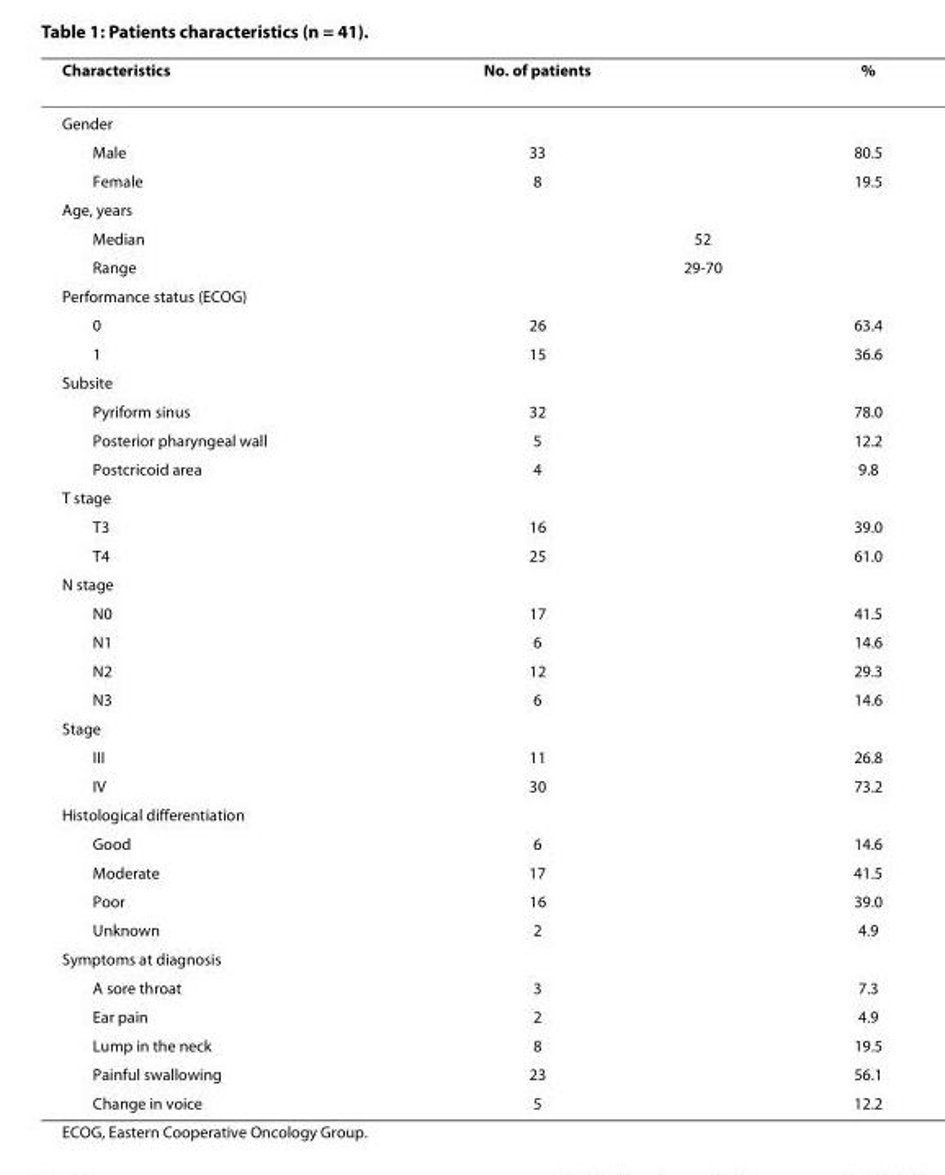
<table><thead><tr><td>Characteristics</td><td>No. of patients</td><td>%</td></tr></thead><tbody><tr><td colspan="3">Gender</td></tr><tr><td>Male</td><td>33</td><td>80.5</td></tr><tr><td>Female</td><td>8</td><td>19.5</td></tr><tr><td colspan="3">Age, years</td></tr><tr><td>Median</td><td colspan="2">52</td></tr><tr><td>Range</td><td colspan="2">29-70</td></tr><tr><td colspan="3">Performance status (ECOG)</td></tr><tr><td>0</td><td>26</td><td>63.4</td></tr><tr><td>1</td><td>15</td><td>36.6</td></tr><tr><td colspan="3">Subsite</td></tr><tr><td>Pyriform sinus</td><td>32</td><td>78.0</td></tr><tr><td>Posterior pharyngeal wall</td><td>5</td><td>12.2</td></tr><tr><td>Postcricoid area</td><td>4</td><td>9.8</td></tr><tr><td colspan="3">T stage</td></tr><tr><td>T3</td><td>16</td><td>39.0</td></tr><tr><td>T4</td><td>25</td><td>61.0</td></tr><tr><td colspan="3">N stage</td></tr><tr><td>N0</td><td>17</td><td>41.5</td></tr><tr><td>N1</td><td>6</td><td>14.6</td></tr><tr><td>N2</td><td>12</td><td>29.3</td></tr><tr><td>N3</td><td>6</td><td>14.6</td></tr><tr><td colspan="3">Stage</td></tr><tr><td>III</td><td>11</td><td>26.8</td></tr><tr><td>IV</td><td>30</td><td>73.2</td></tr><tr><td colspan="3">Histological differentiation</td></tr><tr><td>Good</td><td>6</td><td>14.6</td></tr><tr><td>Moderate</td><td>17</td><td>41.5</td></tr><tr><td>Poor</td><td>16</td><td>39.0</td></tr><tr><td>Unknown</td><td>2</td><td>4.9</td></tr><tr><td colspan="3">Symptoms at diagnosis</td></tr><tr><td>A sore throat</td><td>3</td><td>7.3</td></tr><tr><td>Ear pain</td><td>2</td><td>4.9</td></tr><tr><td>Lump in the neck</td><td>8</td><td>19.5</td></tr><tr><td>Painful swallowing</td><td>23</td><td>56.1</td></tr><tr><td>Change in voice</td><td>5</td><td>12.2</td></tr></tbody></table>